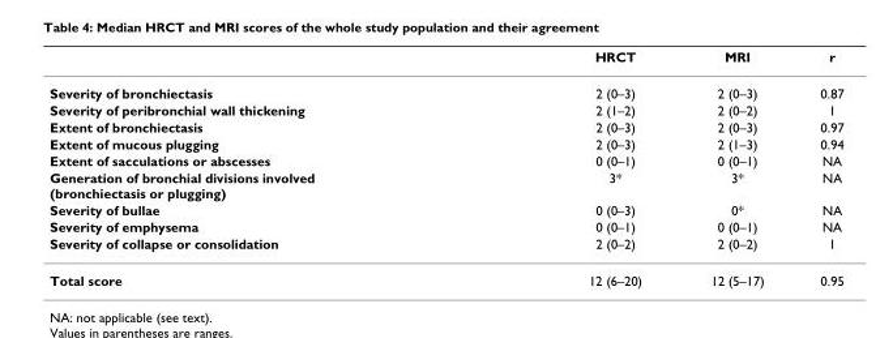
<table><thead><tr><td></td><td>HRCT</td><td>MRI</td><td>r</td></tr></thead><tbody><tr><td>Severity of bronchiectasis</td><td>2 (0–3)</td><td>2 (0–3)</td><td>0.87</td></tr><tr><td>Severity of peribronchial wall thickening</td><td>2 (1–2)</td><td>2 (0–2)</td><td>1</td></tr><tr><td>Extent of bronchiectasis</td><td>2 (0–3)</td><td>2 (0–3)</td><td>0.97</td></tr><tr><td>Extent of mucous plugging</td><td>2 (0–3)</td><td>2 (1–3)</td><td>0.94</td></tr><tr><td>Extent of sacculations or abscesses</td><td>0 (0–1)</td><td>0 (0–1)</td><td>NA</td></tr><tr><td>Generation of bronchial divisions involved (bronchiectasis or plugging)</td><td>3*</td><td>3*</td><td>NA</td></tr><tr><td>Severity of bullae</td><td>0 (0–3)</td><td>0*</td><td>NA</td></tr><tr><td>Severity of emphysema</td><td>0 (0–1)</td><td>0 (0–1)</td><td>NA</td></tr><tr><td>Severity of collapse or consolidation</td><td>2 (0–2)</td><td>2 (0–2)</td><td>1</td></tr><tr><td>Total score</td><td>12 (6–20)</td><td>12 (5–17)</td><td>0.95</td></tr></tbody></table>